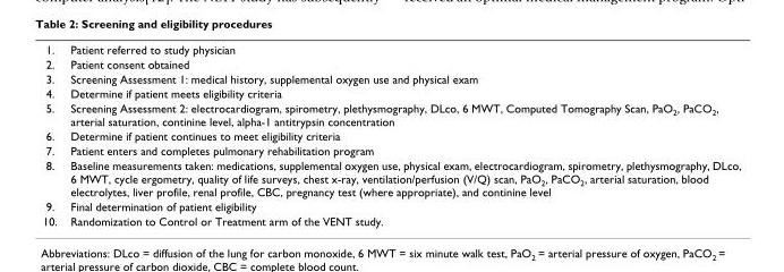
<table><tbody><tr><td>1.</td><td>Patient referred to study physician</td></tr><tr><td>2.</td><td>Patient consent obtained</td></tr><tr><td>3.</td><td>Screening Assessment 1: medical history, supplemental oxygen use and physical exam</td></tr><tr><td>4.</td><td>Determine if patient meets eligibility criteria</td></tr><tr><td>5.</td><td>Screening Assessment 2: electrocardiogram, spirometry, plethysmography, DLco, 6 MWT, Computed Tomography Scan, PaO<sub>2</sub>, PaCO<sub>2</sub>, arterial saturation, continine level, alpha-1 antitrypsin concentration</td></tr><tr><td>6.</td><td>Determine if patient continues to meet eligibility criteria</td></tr><tr><td>7.</td><td>Patient enters and completes pulmonary rehabilitation program</td></tr><tr><td>8.</td><td>Baseline measurements taken: medications, supplemental oxygen use, physical exam, electrocardiogram, spirometry, plethysmography, DLco, 6 MWT, cycle ergometry, quality of life surveys, chest x-ray, ventilation/perfusion (V/Q) scan, PaO<sub>2</sub>, PaCO<sub>2</sub>, arterial saturation, blood electrolytes, liver profile, renal profile, CBC, pregnancy test (where appropriate), and continine level</td></tr><tr><td>9.</td><td>Final determination of patient eligibility</td></tr><tr><td>10.</td><td>Randomization to Control or Treatment arm of the VENT study.</td></tr></tbody></table>